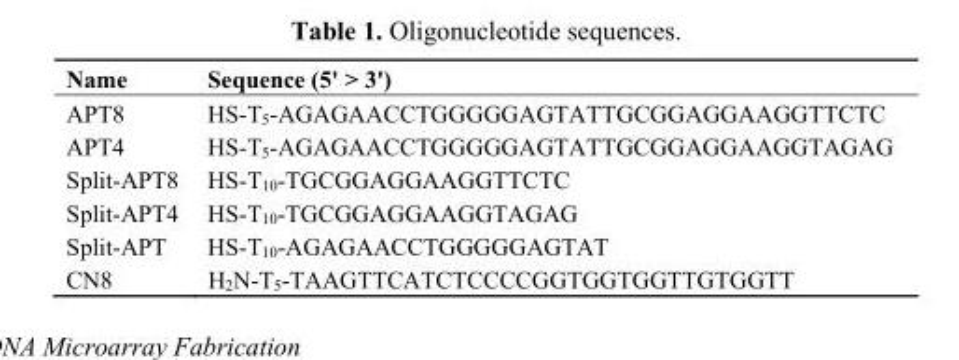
<table><thead><tr><td>Name</td><td>Sequence (5&#x27; &gt; 3&#x27;)</td></tr></thead><tbody><tr><td>APT8</td><td>HS-T<sub>5</sub>-AGAGAACCTGGGGGAGTATTGCGGAGGAAGGTTCTC</td></tr><tr><td>APT4</td><td>HS-T<sub>5</sub>-AGAGAACCTGGGGGAGTATTGCGGAGGAAGGTAGAG</td></tr><tr><td>Split-APT8</td><td>HS-T<sub>10</sub>-TGCGGAGGAAGGTTCTC</td></tr><tr><td>Split-APT4</td><td>HS-T<sub>10</sub>-TGCGGAGGAAGGTAGAG</td></tr><tr><td>Split-APT</td><td>HS-T<sub>10</sub>-AGAGAACCTGGGGGAGTAT</td></tr><tr><td>CN8</td><td>H<sub>2</sub>N-T<sub>5</sub>-TAAGTTCATCTCCCCGGTGGTGGTTGTGGTT</td></tr></tbody></table>